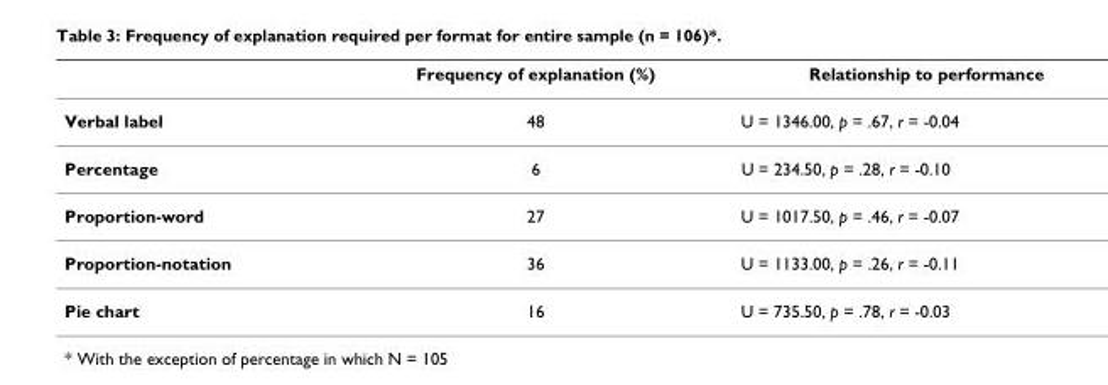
<table><thead><tr><td></td><td>Frequency of explanation (%)</td><td>Relationship to performance</td></tr></thead><tbody><tr><td>Verbal label</td><td>48</td><td>U = 1346.00, p = .67, r = -0.04</td></tr><tr><td>Percentage</td><td>6</td><td>U = 234.50, p = .28, r = -0.10</td></tr><tr><td>Proportion-word</td><td>27</td><td>U = 1017.50, p = .46, r = -0.07</td></tr><tr><td>Proportion-notation</td><td>36</td><td>U = 1133.00, p = .26, r = -0.11</td></tr><tr><td>Pie chart</td><td>16</td><td>U = 735.50, p = .78, r = -0.03</td></tr></tbody></table>